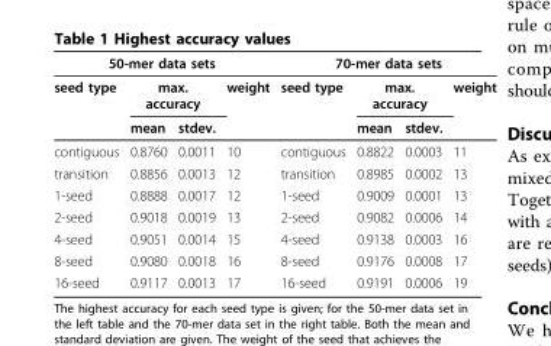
<table><tbody><tr><td colspan="4">50-mer data sets</td><td colspan="4">70-mer data sets</td></tr><tr><td rowspan="2">seed type</td><td colspan="2">max. accuracy</td><td>weight</td><td>seed type</td><td colspan="2">max. accuracy</td><td>weight</td></tr><tr><td>mean</td><td>stdev.</td><td></td><td></td><td>mean</td><td>stdev.</td><td></td></tr><tr><td>contiguous</td><td>0.8760</td><td>0.0011</td><td>10</td><td>contiguous</td><td>0.8822</td><td>0.0003</td><td>11</td></tr><tr><td>transition</td><td>0.8856</td><td>0.0013</td><td>12</td><td>transition</td><td>0.8985</td><td>0.0002</td><td>13</td></tr><tr><td>1-seed</td><td>0.8888</td><td>0.0017</td><td>12</td><td>1-seed</td><td>0.9009</td><td>0.0001</td><td>13</td></tr><tr><td>2-seed</td><td>0.9018</td><td>0.0019</td><td>13</td><td>2-seed</td><td>0.9082</td><td>0.0006</td><td>14</td></tr><tr><td>4-seed</td><td>0.9051</td><td>0.0014</td><td>15</td><td>4-seed</td><td>0.9138</td><td>0.0003</td><td>16</td></tr><tr><td>8-seed</td><td>0.9080</td><td>0.0018</td><td>16</td><td>8-seed</td><td>0.9176</td><td>0.0008</td><td>17</td></tr><tr><td>16-seed</td><td>0.9117</td><td>0.0013</td><td>17</td><td>16-seed</td><td>0.9191</td><td>0.0006</td><td>19</td></tr></tbody></table>